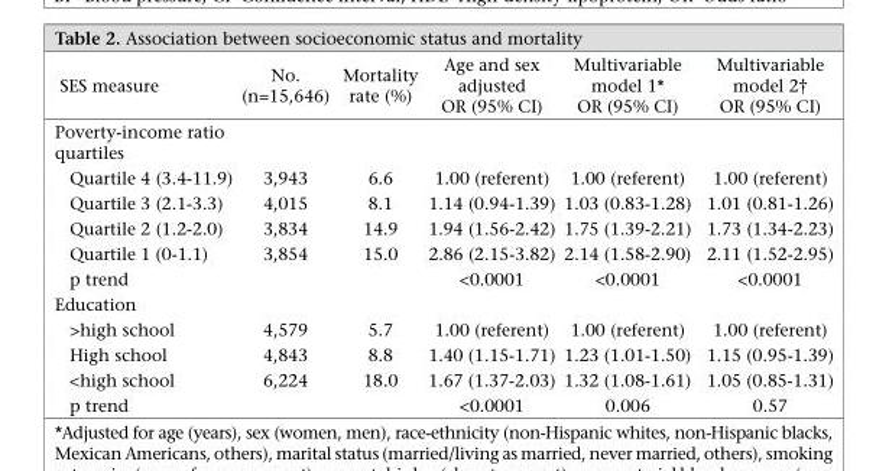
<table><thead><tr><td>SES measure</td><td>No. (n=15,646)</td><td>Mortality rate (%)</td><td>Age and sex adjusted OR (95% CI)</td><td>Multivariable model 1* OR (95% CI)</td><td>Multivariable model 2† OR (95% CI)</td></tr></thead><tbody><tr><td colspan="6">Poverty-income ratio quartiles</td></tr><tr><td>Quartile 4 (3.4-11.9)</td><td>3,943</td><td>6.6</td><td>1.00 (referent)</td><td>1.00 (referent)</td><td>1.00 (referent)</td></tr><tr><td>Quartile 3 (2.1-3.3)</td><td>4,015</td><td>8.1</td><td>1.14 (0.94-1.39)</td><td>1.03 (0.83-1.28)</td><td>1.01 (0.81-1.26)</td></tr><tr><td>Quartile 2 (1.2-2.0)</td><td>3,834</td><td>14.9</td><td>1.94 (1.56-2.42)</td><td>1.75 (1.39-2.21)</td><td>1.73 (1.34-2.23)</td></tr><tr><td>Quartile 1 (0-1.1)</td><td>3,854</td><td>15.0</td><td>2.86 (2.15-3.82)</td><td>2.14 (1.58-2.90)</td><td>2.11 (1.52-2.95)</td></tr><tr><td>p trend</td><td></td><td></td><td>&lt;0.0001</td><td>&lt;0.0001</td><td>&lt;0.0001</td></tr><tr><td colspan="6">Education</td></tr><tr><td>&gt;high school</td><td>4,579</td><td>5.7</td><td>1.00 (referent)</td><td>1.00 (referent)</td><td>1.00 (referent)</td></tr><tr><td>High school</td><td>4,843</td><td>8.8</td><td>1.40 (1.15-1.71)</td><td>1.23 (1.01-1.50)</td><td>1.15 (0.95-1.39)</td></tr><tr><td>&lt;high school</td><td>6,224</td><td>18.0</td><td>1.67 (1.37-2.03)</td><td>1.32 (1.08-1.61)</td><td>1.05 (0.85-1.31)</td></tr><tr><td>p trend</td><td></td><td></td><td>&lt;0.0001</td><td>0.006</td><td>0.57</td></tr></tbody></table>